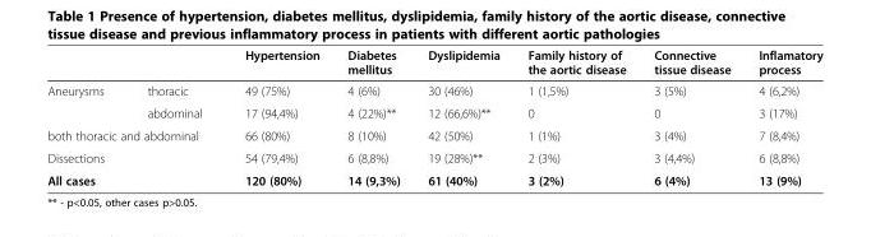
<table><thead><tr><td></td><td></td><td>Hypertension</td><td>Diabetes mellitus</td><td>Dyslipidemia</td><td>Family history of the aortic disease</td><td>Connective tissue disease</td><td>Inflamatory process</td></tr></thead><tbody><tr><td rowspan="2">Aneurysms</td><td>thoracic</td><td>49 (75%)</td><td>4 (6%)</td><td>30 (46%)</td><td>1 (1,5%)</td><td>3 (5%)</td><td>4 (6,2%)</td></tr><tr><td>abdominal</td><td>17 (94,4%)</td><td>4 (22%)**</td><td>12 (66,6%)**</td><td>0</td><td>0</td><td>3 (17%)</td></tr><tr><td colspan="2">both thoracic and abdominal</td><td>66 (80%)</td><td>8 (10%)</td><td>42 (50%)</td><td>1 (1%)</td><td>3 (4%)</td><td>7 (8,4%)</td></tr><tr><td>Dissections</td><td></td><td>54 (79,4%)</td><td>6 (8,8%)</td><td>19 (28%)**</td><td>2 (3%)</td><td>3 (4,4%)</td><td>6 (8,8%)</td></tr><tr><td colspan="2">All cases</td><td>120 (80%)</td><td>14 (9,3%)</td><td>61 (40%)</td><td>3 (2%)</td><td>6 (4%)</td><td>13 (9%)</td></tr></tbody></table>